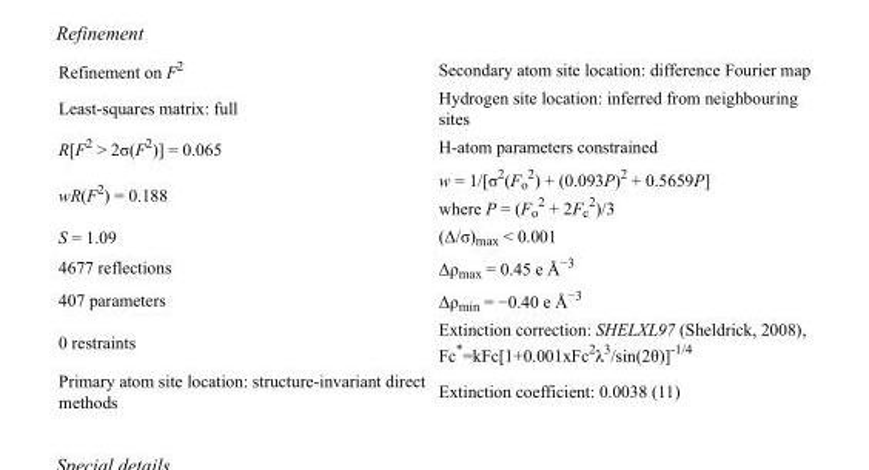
<table><tbody><tr><td>Refinement on F<sup>2</sup></td><td>Secondary atom site location: difference Fourier map</td></tr><tr><td>Least-squares matrix: full</td><td>Hydrogen site location: inferred from neighbouring sites</td></tr><tr><td>R[F<sup>2</sup> &gt; 2σ(F<sup>2</sup>)] = 0.065</td><td>H-atom parameters constrained</td></tr><tr><td>wR(F<sup>2</sup>) = 0.188</td><td>w = 1/[σ<sup>2</sup>(F<sub>o</sub> <sup>2</sup>) + (0.093P)<sup>2</sup> + 0.5659P] where P = (F<sub>o</sub> <sup>2</sup> + 2F<sub>c</sub> <sup>2</sup>)/3</td></tr><tr><td>S = 1.09</td><td>(Δ/σ)<sub>max</sub> &lt; 0.001</td></tr><tr><td>4677 reflections</td><td>Δρ<sub>max</sub> = 0.45 e Å<sup>−3</sup></td></tr><tr><td>407 parameters</td><td>Δρ<sub>min</sub> = −0.40 e Å<sup>−3</sup></td></tr><tr><td>0 restraints</td><td>Extinction correction: SHELXL97 (Sheldrick, 2008), Fc*=kFc[1+0.001xFc<sup>2</sup>λ<sup>3</sup>/sin(2θ)]<sup>-1/4</sup></td></tr><tr><td>Primary atom site location: structure-invariant direct methods</td><td>Extinction coefficient: 0.0038 (11)</td></tr></tbody></table>